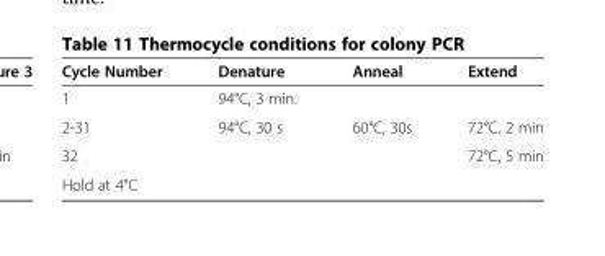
<table><thead><tr><td>Cycle Number</td><td>Denature</td><td>Anneal</td><td>Extend</td></tr></thead><tbody><tr><td>1</td><td>94°C, 3 min.</td><td></td><td></td></tr><tr><td>2-31</td><td>94°C, 30 s</td><td>60°C, 30s</td><td>72°C, 2 min</td></tr><tr><td>32</td><td></td><td></td><td>72°C, 5 min</td></tr><tr><td>Hold at 4°C</td><td></td><td></td><td></td></tr></tbody></table>